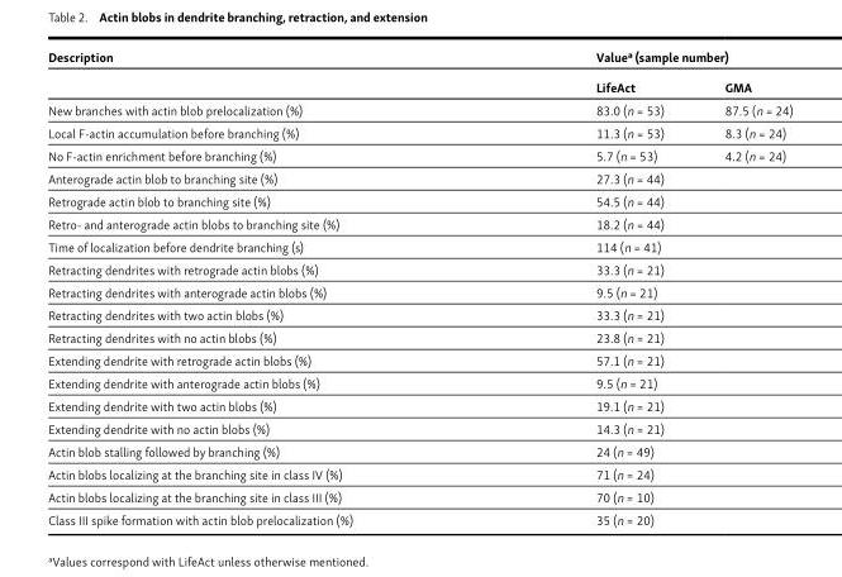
<table><thead><tr><td rowspan="2">Description</td><td colspan="2">Value<sup>a</sup> (sample number)</td></tr><tr><td>LifeAct</td><td>GMA</td></tr></thead><tbody><tr><td>New branches with actin blob prelocalization (%)</td><td>83.0 (n = 53)</td><td>87.5 (n = 24)</td></tr><tr><td>Local F-actin accumulation before branching (%)</td><td>11.3 (n = 53)</td><td>8.3 (n = 24)</td></tr><tr><td>No F-actin enrichment before branching (%)</td><td>5.7 (n = 53)</td><td>4.2 (n = 24)</td></tr><tr><td>Anterograde actin blob to branching site (%)</td><td colspan="2">27.3 (n = 44)</td></tr><tr><td>Retrograde actin blob to branching site (%)</td><td colspan="2">54.5 (n = 44)</td></tr><tr><td>Retro- and anterograde actin blobs to branching site (%)</td><td colspan="2">18.2 (n = 44)</td></tr><tr><td>Time of localization before dendrite branching (s)</td><td colspan="2">114 (n = 41)</td></tr><tr><td>Retracting dendrites with retrograde actin blobs (%)</td><td colspan="2">33.3 (n = 21)</td></tr><tr><td>Retracting dendrites with anterograde actin blobs (%)</td><td colspan="2">9.5 (n = 21)</td></tr><tr><td>Retracting dendrites with two actin blobs (%)</td><td colspan="2">33.3 (n = 21)</td></tr><tr><td>Retracting dendrites with no actin blobs (%)</td><td colspan="2">23.8 (n = 21)</td></tr><tr><td>Extending dendrite with retrograde actin blobs (%)</td><td colspan="2">57.1 (n = 21)</td></tr><tr><td>Extending dendrite with anterograde actin blobs (%)</td><td colspan="2">9.5 (n = 21)</td></tr><tr><td>Extending dendrite with two actin blobs (%)</td><td colspan="2">19.1 (n = 21)</td></tr><tr><td>Extending dendrite with no actin blobs (%)</td><td colspan="2">14.3 (n = 21)</td></tr><tr><td>Actin blob stalling followed by branching (%)</td><td colspan="2">24 (n = 49)</td></tr><tr><td>Actin blobs localizing at the branching site in class IV (%)</td><td colspan="2">71 (n = 24)</td></tr><tr><td>Actin blobs localizing at the branching site in class III (%)</td><td colspan="2">70 (n = 10)</td></tr><tr><td>Class III spike formation with actin blob prelocalization (%)</td><td colspan="2">35 (n = 20)</td></tr></tbody></table>